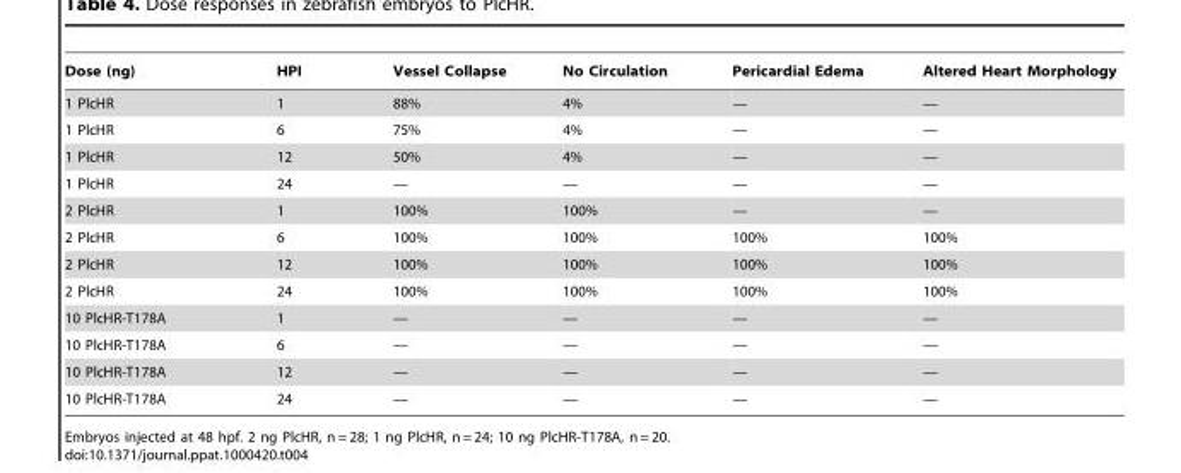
<table><thead><tr><td>Dose (ng)</td><td>HPI</td><td>Vessel Collapse</td><td>No Circulation</td><td>Pericardial Edema</td><td>Altered Heart Morphology</td></tr></thead><tbody><tr><td>1 PlcHR</td><td>1</td><td>88%</td><td>4%</td><td>—</td><td>—</td></tr><tr><td>1 PlcHR</td><td>6</td><td>75%</td><td>4%</td><td>—</td><td>—</td></tr><tr><td>1 PlcHR</td><td>12</td><td>50%</td><td>4%</td><td>—</td><td>—</td></tr><tr><td>1 PlcHR</td><td>24</td><td>—</td><td>—</td><td>—</td><td>—</td></tr><tr><td>2 PlcHR</td><td>1</td><td>100%</td><td>100%</td><td>—</td><td>—</td></tr><tr><td>2 PlcHR</td><td>6</td><td>100%</td><td>100%</td><td>100%</td><td>100%</td></tr><tr><td>2 PlcHR</td><td>12</td><td>100%</td><td>100%</td><td>100%</td><td>100%</td></tr><tr><td>2 PlcHR</td><td>24</td><td>100%</td><td>100%</td><td>100%</td><td>100%</td></tr><tr><td>10 PlcHR-T178A</td><td>1</td><td>—</td><td>—</td><td>—</td><td>—</td></tr><tr><td>10 PlcHR-T178A</td><td>6</td><td>—</td><td>—</td><td>—</td><td>—</td></tr><tr><td>10 PlcHR-T178A</td><td>12</td><td>—</td><td>—</td><td>—</td><td>—</td></tr><tr><td>10 PlcHR-T178A</td><td>24</td><td>—</td><td>—</td><td>—</td><td>—</td></tr></tbody></table>